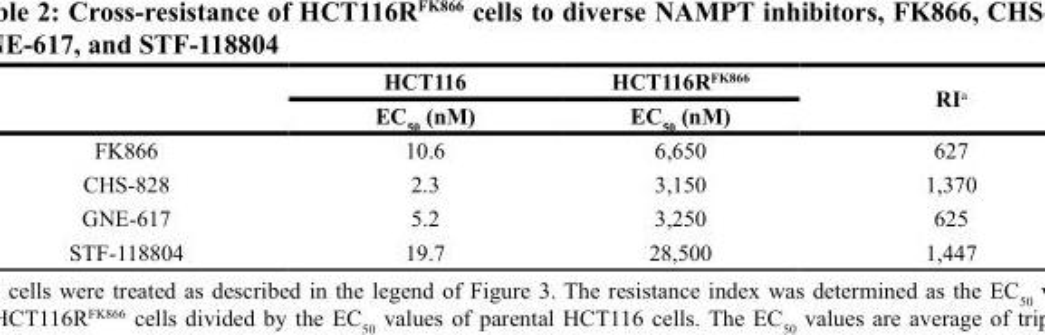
<table><thead><tr><td rowspan="2"></td><td rowspan="2">HCT116 EC<sub>50</sub> (nM)</td><td rowspan="2">HCT116R<sup>FK866</sup> EC<sub>50</sub> (nM)</td><td rowspan="2">RI<sup>a</sup></td></tr><tr></tr></thead><tbody><tr><td>FK866</td><td>10.6</td><td>6,650</td><td>627</td></tr><tr><td>CHS-828</td><td>2.3</td><td>3,150</td><td>1,370</td></tr><tr><td>GNE-617</td><td>5.2</td><td>3,250</td><td>625</td></tr><tr><td>STF-118804</td><td>19.7</td><td>28,500</td><td>1,447</td></tr></tbody></table>